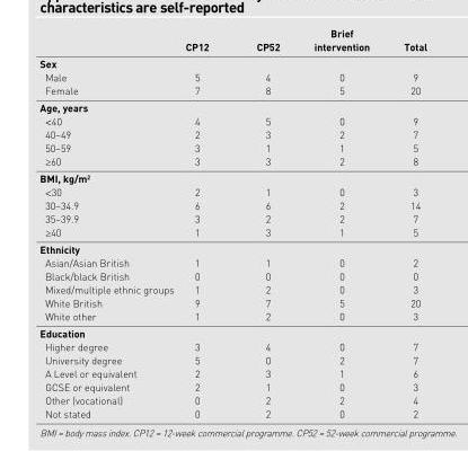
<table><thead><tr><td></td><td>CP12</td><td>CP52</td><td>intervention</td><td>Total</td></tr></thead><tbody><tr><td colspan="5">Sex</td></tr><tr><td>Male</td><td>5</td><td>4</td><td>0</td><td>9</td></tr><tr><td>Female</td><td>7</td><td>8</td><td>5</td><td>20</td></tr><tr><td colspan="5">Age, years</td></tr><tr><td>&lt;40</td><td>4</td><td>5</td><td>0</td><td>9</td></tr><tr><td>40–49</td><td>2</td><td>3</td><td>2</td><td>7</td></tr><tr><td>50–59</td><td>3</td><td>1</td><td>1</td><td>5</td></tr><tr><td>≥60</td><td>3</td><td>3</td><td>2</td><td>8</td></tr><tr><td colspan="5">BMI, kg/m<sup>2</sup></td></tr><tr><td>&lt;30</td><td>2</td><td>1</td><td>0</td><td>3</td></tr><tr><td>30–34.9</td><td>6</td><td>6</td><td>2</td><td>14</td></tr><tr><td>35–39.9</td><td>3</td><td>2</td><td>2</td><td>7</td></tr><tr><td>≥40</td><td>1</td><td>3</td><td>1</td><td>5</td></tr><tr><td colspan="5">Ethnicity</td></tr><tr><td>Asian/Asian British</td><td>1</td><td>1</td><td>0</td><td>2</td></tr><tr><td>Black/black British</td><td>0</td><td>0</td><td>0</td><td>0</td></tr><tr><td>Mixed/multiple ethnic groups</td><td>1</td><td>2</td><td>0</td><td>3</td></tr><tr><td>White British</td><td>9</td><td>7</td><td>5</td><td>20</td></tr><tr><td>White other</td><td>1</td><td>2</td><td>0</td><td>3</td></tr><tr><td colspan="5">Education</td></tr><tr><td>Higher degree</td><td>3</td><td>4</td><td>0</td><td>7</td></tr><tr><td>University degree</td><td>5</td><td>0</td><td>2</td><td>7</td></tr><tr><td>A Level or equivalent</td><td>2</td><td>3</td><td>1</td><td>6</td></tr><tr><td>GCSE or equivalent</td><td>2</td><td>1</td><td>0</td><td>3</td></tr><tr><td>Other (vocational)</td><td>0</td><td>2</td><td>2</td><td>4</td></tr><tr><td>Not stated</td><td>0</td><td>2</td><td>0</td><td>2</td></tr></tbody></table>